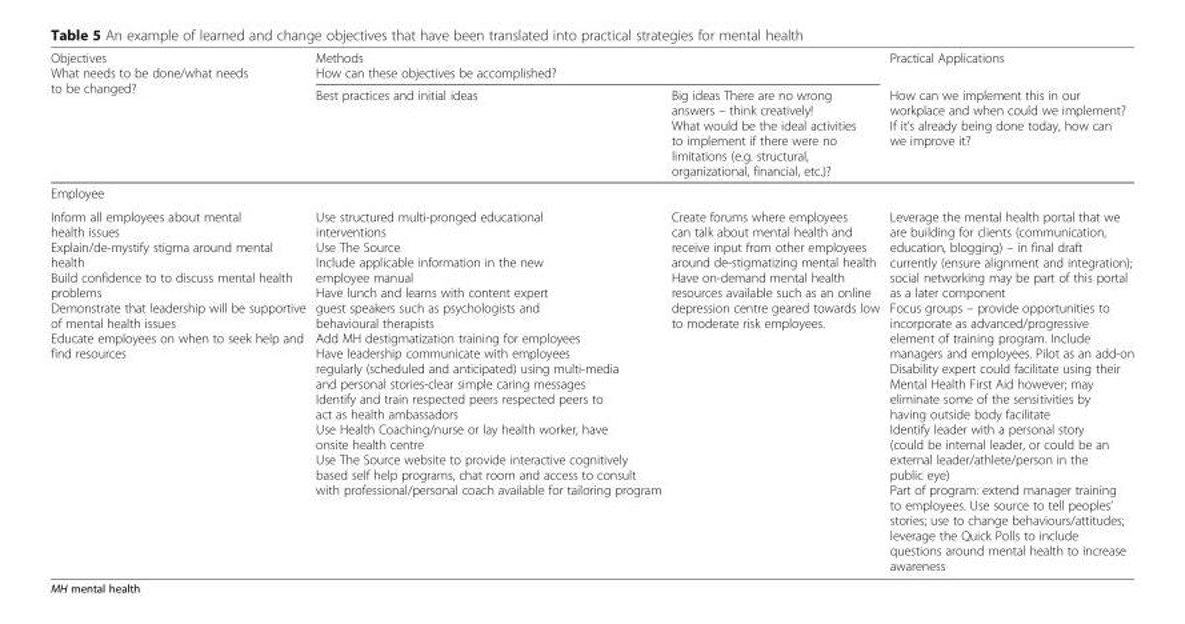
<table><thead><tr><td rowspan="2">Objectives What needs to be done/what needs to be changed?</td><td colspan="2">Methods How can these objectives be accomplished?</td><td rowspan="2">Practical Applications How can we implement this in our workplace and when could we implement? If it’s already being done today, how can we improve it?</td></tr><tr><td>Best practices and initial ideas</td><td>Big ideas There are no wrong answers – think creatively! What would be the ideal activities to implement if there were no limitations (e.g. structural, organizational, financial, etc.)?</td></tr></thead><tbody><tr><td colspan="4">Employee</td></tr><tr><td>Inform all employees about mental health issues Explain/de-mystify stigma around mental health Build confidence to to discuss mental health problems Demonstrate that leadership will be supportive of mental health issues Educate employees on when to seek help and find resources</td><td>Use structured multi-pronged educational interventions Use The Source Include applicable information in the new employee manual Have lunch and learns with content expert guest speakers such as psychologists and behavioural therapists Add MH destigmatization training for employees Have leadership communicate with employees regularly (scheduled and anticipated) using multi-media and personal stories-clear simple caring messages Identify and train respected peers respected peers to act as health ambassadors Use Health Coaching/nurse or lay health worker, have onsite health centre Use The Source website to provide interactive cognitively based self help programs, chat room and access to consult with professional/personal coach available for tailoring program</td><td>Create forums where employees can talk about mental health and receive input from other employees around de-stigmatizing mental health Have on-demand mental health resources available such as an online depression centre geared towards low to moderate risk employees.</td><td>Leverage the mental health portal that we are building for clients (communication, education, blogging) – in final draft currently (ensure alignment and integration); social networking may be part of this portal as a later component Focus groups – provide opportunities to incorporate as advanced/progressive element of training program. Include managers and employees. Pilot as an add-on Disability expert could facilitate using their Mental Health First Aid however; may eliminate some of the sensitivities by having outside body facilitate Identify leader with a personal story (could be internal leader, or could be an external leader/athlete/person in the public eye) Part of program: extend manager training to employees. Use source to tell peoples’ stories; use to change behaviours/attitudes; leverage the Quick Polls to include questions around mental health to increase awareness</td></tr></tbody></table>